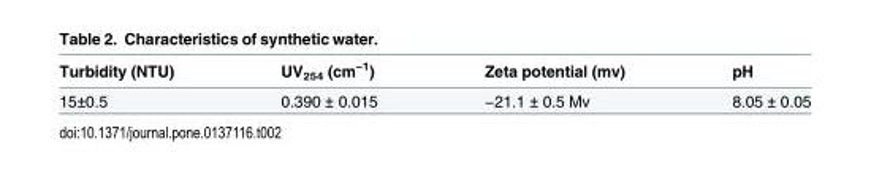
<table><thead><tr><td>Turbidity (NTU)</td><td>UV<sub>254</sub> (cm<sup>−1</sup>)</td><td>Zeta potential (mv)</td><td>pH</td></tr></thead><tbody><tr><td>15±0.5</td><td>0.390 ± 0.015</td><td>−21.1 ± 0.5 Mv</td><td>8.05 ± 0.05</td></tr></tbody></table>